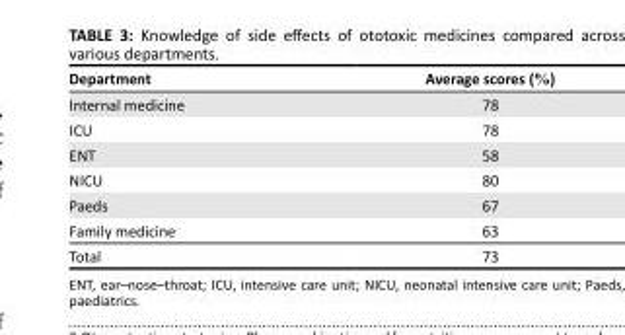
<table><thead><tr><td>Department</td><td>Average scores (%)</td></tr></thead><tbody><tr><td>Internal medicine</td><td>78</td></tr><tr><td>ICU</td><td>78</td></tr><tr><td>ENT</td><td>58</td></tr><tr><td>NICU</td><td>80</td></tr><tr><td>Paeds</td><td>67</td></tr><tr><td>Family medicine</td><td>63</td></tr><tr><td>Total</td><td>73</td></tr></tbody></table>